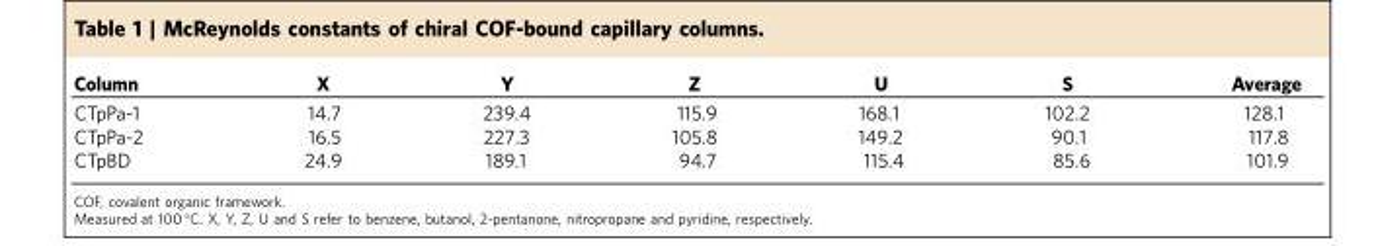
<table><thead><tr><td>Column</td><td>X</td><td>Y</td><td>Z</td><td>U</td><td>S</td><td>Average</td></tr></thead><tbody><tr><td>CTpPa-1</td><td>14.7</td><td>239.4</td><td>115.9</td><td>168.1</td><td>102.2</td><td>128.1</td></tr><tr><td>CTpPa-2</td><td>16.5</td><td>227.3</td><td>105.8</td><td>149.2</td><td>90.1</td><td>117.8</td></tr><tr><td>CTpBD</td><td>24.9</td><td>189.1</td><td>94.7</td><td>115.4</td><td>85.6</td><td>101.9</td></tr></tbody></table>